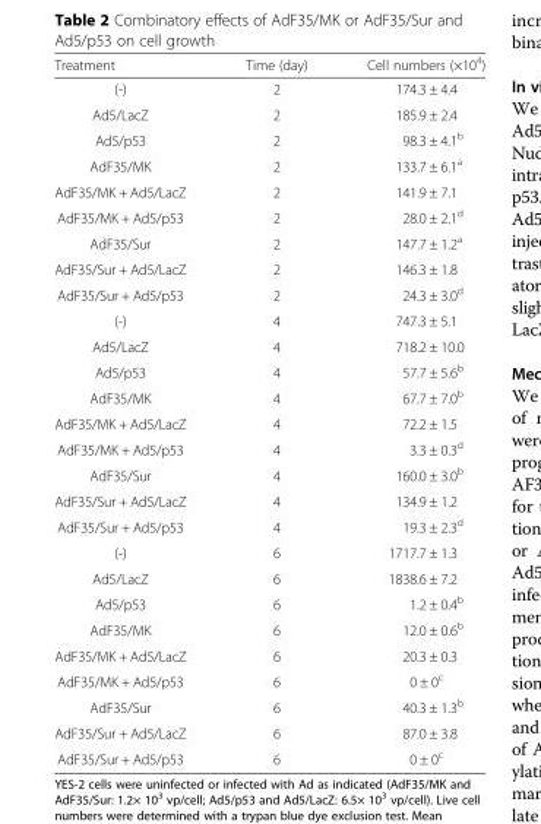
<table><thead><tr><td>Treatment</td><td>Time (day)</td><td>Cell numbers (×10<sup>4</sup>)</td></tr></thead><tbody><tr><td>(-)</td><td>2</td><td>174.3 ± 4.4</td></tr><tr><td>Ad5/LacZ</td><td>2</td><td>185.9 ± 2.4</td></tr><tr><td>Ad5/p53</td><td>2</td><td>98.3 ± 4.1<sup>b</sup></td></tr><tr><td>AdF35/MK</td><td>2</td><td>133.7 ± 6.1<sup>a</sup></td></tr><tr><td>AdF35/MK + Ad5/LacZ</td><td>2</td><td>141.9 ± 7.1</td></tr><tr><td>AdF35/MK + Ad5/p53</td><td>2</td><td>28.0 ± 2.1<sup>d</sup></td></tr><tr><td>AdF35/Sur</td><td>2</td><td>147.7 ± 1.2<sup>a</sup></td></tr><tr><td>AdF35/Sur + Ad5/LacZ</td><td>2</td><td>146.3 ± 1.8</td></tr><tr><td>AdF35/Sur + Ad5/p53</td><td>2</td><td>24.3 ± 3.0<sup>d</sup></td></tr><tr><td>(-)</td><td>4</td><td>747.3 ± 5.1</td></tr><tr><td>Ad5/LacZ</td><td>4</td><td>718.2 ± 10.0</td></tr><tr><td>Ad5/p53</td><td>4</td><td>57.7 ± 5.6<sup>b</sup></td></tr><tr><td>AdF35/MK</td><td>4</td><td>67.7 ± 7.0<sup>b</sup></td></tr><tr><td>AdF35/MK + Ad5/LacZ</td><td>4</td><td>72.2 ± 1.5</td></tr><tr><td>AdF35/MK + Ad5/p53</td><td>4</td><td>3.3 ± 0.3<sup>d</sup></td></tr><tr><td>AdF35/Sur</td><td>4</td><td>160.0 ± 3.0<sup>b</sup></td></tr><tr><td>AdF35/Sur + Ad5/LacZ</td><td>4</td><td>134.9 ± 1.2</td></tr><tr><td>AdF35/Sur + Ad5/p53</td><td>4</td><td>19.3 ± 2.3<sup>d</sup></td></tr><tr><td>(-)</td><td>6</td><td>1717.7 ± 1.3</td></tr><tr><td>Ad5/LacZ</td><td>6</td><td>1838.6 ± 7.2</td></tr><tr><td>Ad5/p53</td><td>6</td><td>1.2 ± 0.4<sup>b</sup></td></tr><tr><td>AdF35/MK</td><td>6</td><td>12.0 ± 0.6<sup>b</sup></td></tr><tr><td>AdF35/MK + Ad5/LacZ</td><td>6</td><td>20.3 ± 0.3</td></tr><tr><td>AdF35/MK + Ad5/p53</td><td>6</td><td>0 ± 0<sup>c</sup></td></tr><tr><td>AdF35/Sur</td><td>6</td><td>40.3 ± 1.3<sup>b</sup></td></tr><tr><td>AdF35/Sur + Ad5/LacZ</td><td>6</td><td>87.0 ± 3.8</td></tr><tr><td>AdF35/Sur + Ad5/p53</td><td>6</td><td>0 ± 0<sup>c</sup></td></tr></tbody></table>